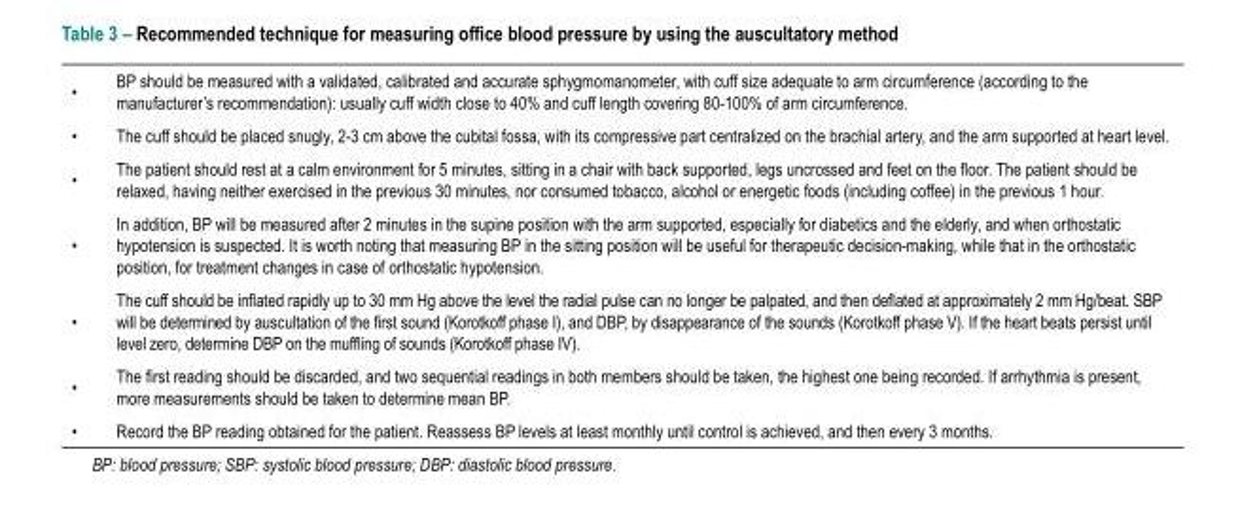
<table><tbody><tr><td>•</td><td>BP should be measured with a validated, calibrated and accurate sphygmomanometer, with cuff size adequate to arm circumference (according to the manufacturer’s recommendation): usually cuff width close to 40% and cuff length covering 80-100% of arm circumference.</td></tr><tr><td>•</td><td>The cuff should be placed snugly, 2-3 cm above the cubital fossa, with its compressive part centralized on the brachial artery, and the arm supported at heart level.</td></tr><tr><td>•</td><td>The patient should rest at a calm environment for 5 minutes, sitting in a chair with back supported, legs uncrossed and feet on the floor. The patient should be relaxed, having neither exercised in the previous 30 minutes, nor consumed tobacco, alcohol or energetic foods (including coffee) in the previous 1 hour.</td></tr><tr><td>•</td><td>In addition, BP will be measured after 2 minutes in the supine position with the arm supported, especially for diabetics and the elderly, and when orthostatic hypotension is suspected. It is worth noting that measuring BP in the sitting position will be useful for therapeutic decision-making, while that in the orthostatic position, for treatment changes in case of orthostatic hypotension.</td></tr><tr><td>•</td><td>The cuff should be inflated rapidly up to 30 mm Hg above the level the radial pulse can no longer be palpated, and then deflated at approximately 2 mm Hg/beat. SBP will be determined by auscultation of the first sound (Korotkoff phase I), and DBP, by disappearance of the sounds (Korotkoff phase V). If the heart beats persist until level zero, determine DBP on the muffling of sounds (Korotkoff phase IV).</td></tr><tr><td>•</td><td>The first reading should be discarded, and two sequential readings in both members should be taken, the highest one being recorded. If arrhythmia is present, more measurements should be taken to determine mean BP.</td></tr><tr><td>•</td><td>Record the BP reading obtained for the patient. Reassess BP levels at least monthly until control is achieved, and then every 3 months.</td></tr></tbody></table>